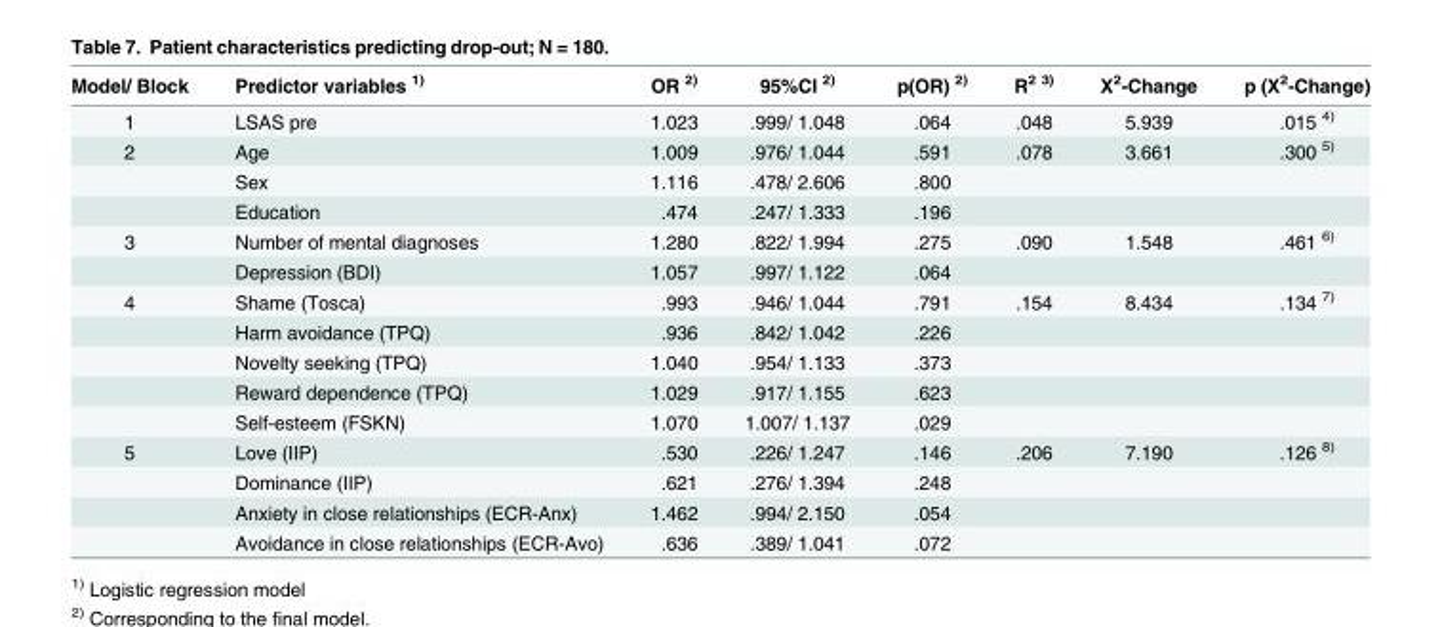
<table><thead><tr><td>Model/ Block</td><td>Predictor variables <sup>1)</sup></td><td>OR <sup>2)</sup></td><td>95%CI <sup>2)</sup></td><td>p(OR) <sup>2)</sup></td><td>R<sup>2 3)</sup></td><td>X<sup>2</sup>-Change</td><td>p (X<sup>2</sup>-Change)</td></tr></thead><tbody><tr><td>1</td><td>LSAS pre</td><td>1.023</td><td>.999/ 1.048</td><td>.064</td><td>.048</td><td>5.939</td><td>.015 <sup>4)</sup></td></tr><tr><td rowspan="3">2</td><td>Age</td><td>1.009</td><td>.976/ 1.044</td><td>.591</td><td>.078</td><td>3.661</td><td>.300 <sup>5)</sup></td></tr><tr><td>Sex</td><td>1.116</td><td>.478/ 2.606</td><td>.800</td><td></td><td></td><td></td></tr><tr><td>Education</td><td>.474</td><td>.247/ 1.333</td><td>.196</td><td></td><td></td><td></td></tr><tr><td rowspan="2">3</td><td>Number of mental diagnoses</td><td>1.280</td><td>.822/ 1.994</td><td>.275</td><td>.090</td><td>1.548</td><td>.461 <sup>6)</sup></td></tr><tr><td>Depression (BDI)</td><td>1.057</td><td>.997/ 1.122</td><td>.064</td><td></td><td></td><td></td></tr><tr><td rowspan="5">4</td><td>Shame (Tosca)</td><td>.993</td><td>.946/ 1.044</td><td>.791</td><td>.154</td><td>8.434</td><td>.134 <sup>7)</sup></td></tr><tr><td>Harm avoidance (TPQ)</td><td>.936</td><td>.842/ 1.042</td><td>.226</td><td></td><td></td><td></td></tr><tr><td>Novelty seeking (TPQ)</td><td>1.040</td><td>.954/ 1.133</td><td>.373</td><td></td><td></td><td></td></tr><tr><td>Reward dependence (TPQ)</td><td>1.029</td><td>.917/ 1.155</td><td>.623</td><td></td><td></td><td></td></tr><tr><td>Self-esteem (FSKN)</td><td>1.070</td><td>1.007/ 1.137</td><td>.029</td><td></td><td></td><td></td></tr><tr><td rowspan="4">5</td><td>Love (IIP)</td><td>.530</td><td>.226/ 1.247</td><td>.146</td><td>.206</td><td>7.190</td><td>.126 <sup>8)</sup></td></tr><tr><td>Dominance (IIP)</td><td>.621</td><td>.276/ 1.394</td><td>.248</td><td></td><td></td><td></td></tr><tr><td>Anxiety in close relationships (ECR-Anx)</td><td>1.462</td><td>.994/ 2.150</td><td>.054</td><td></td><td></td><td></td></tr><tr><td>Avoidance in close relationships (ECR-Avo)</td><td>.636</td><td>.389/ 1.041</td><td>.072</td><td></td><td></td><td></td></tr></tbody></table>